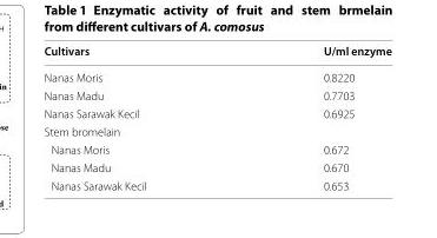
<table><thead><tr><td>Cultivars</td><td>U/ml enzyme</td></tr></thead><tbody><tr><td>Nanas Moris</td><td>0.8220</td></tr><tr><td>Nanas Madu</td><td>0.7703</td></tr><tr><td>Nanas Sarawak Kecil</td><td>0.6925</td></tr><tr><td colspan="2">Stem bromelain</td></tr><tr><td>Nanas Moris</td><td>0.672</td></tr><tr><td>Nanas Madu</td><td>0.670</td></tr><tr><td>Nanas Sarawak Kecil</td><td>0.653</td></tr></tbody></table>